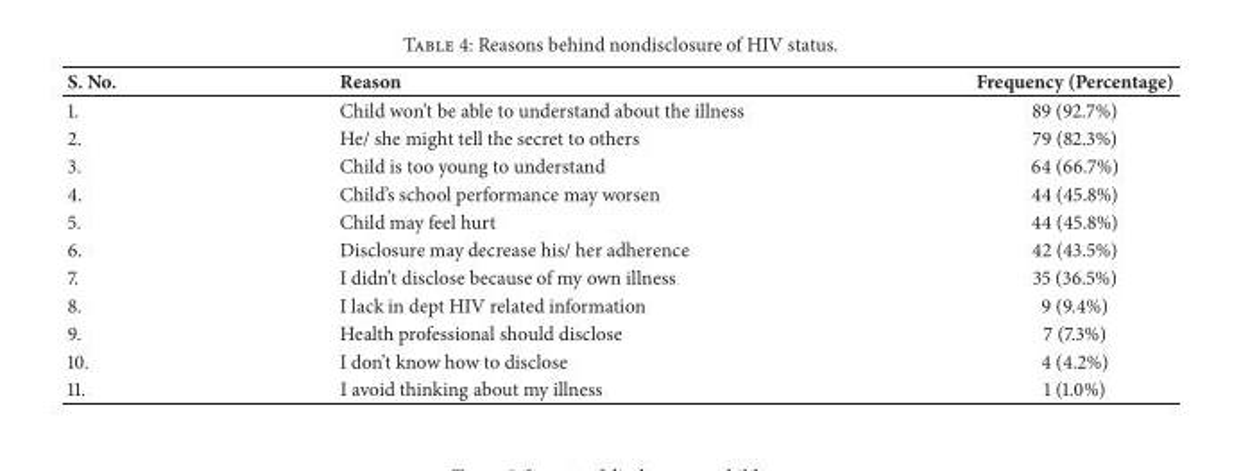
<table><thead><tr><td>S. No.</td><td>Reason</td><td>Frequency (Percentage)</td></tr></thead><tbody><tr><td>1.</td><td>Child won’t be able to understand about the illness</td><td>89 (92.7%)</td></tr><tr><td>2.</td><td>He/ she might tell the secret to others</td><td>79 (82.3%)</td></tr><tr><td>3.</td><td>Child is too young to understand</td><td>64 (66.7%)</td></tr><tr><td>4.</td><td>Child’s school performance may worsen</td><td>44 (45.8%)</td></tr><tr><td>5.</td><td>Child may feel hurt</td><td>44 (45.8%)</td></tr><tr><td>6.</td><td>Disclosure may decrease his/ her adherence</td><td>42 (43.5%)</td></tr><tr><td>7.</td><td>I didn’t disclose because of my own illness</td><td>35 (36.5%)</td></tr><tr><td>8.</td><td>I lack in dept HIV related information</td><td>9 (9.4%)</td></tr><tr><td>9.</td><td>Health professional should disclose</td><td>7 (7.3%)</td></tr><tr><td>10.</td><td>I don’t know how to disclose</td><td>4 (4.2%)</td></tr><tr><td>11.</td><td>I avoid thinking about my illness</td><td>1 (1.0%)</td></tr></tbody></table>